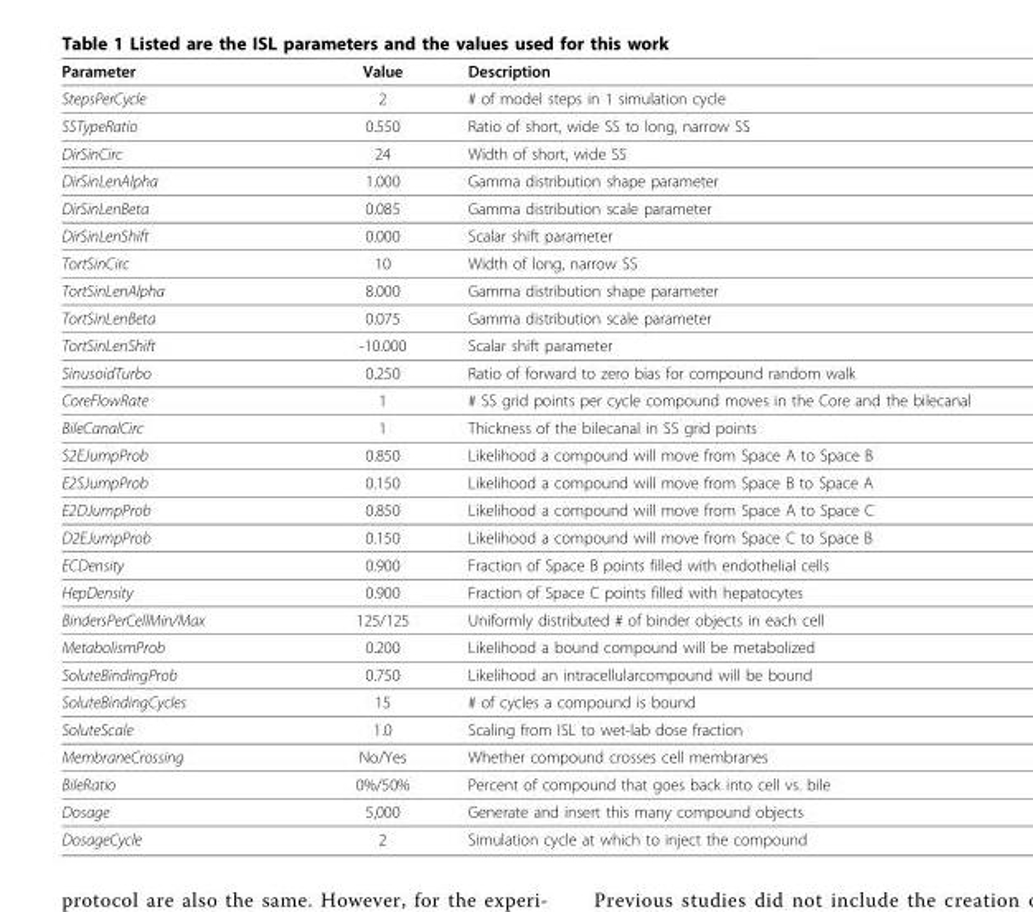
<table><thead><tr><td>Parameter</td><td>Value</td><td>Description</td></tr></thead><tbody><tr><td>StepsPerCycle</td><td>2</td><td># of model steps in 1 simulation cycle</td></tr><tr><td>SSTypeRatio</td><td>0.550</td><td>Ratio of short, wide SS to long, narrow SS</td></tr><tr><td>DirSinCirc</td><td>24</td><td>Width of short, wide SS</td></tr><tr><td>DirSinLenAlpha</td><td>1.000</td><td>Gamma distribution shape parameter</td></tr><tr><td>DirSinLenBeta</td><td>0.085</td><td>Gamma distribution scale parameter</td></tr><tr><td>DirSinLenShift</td><td>0.000</td><td>Scalar shift parameter</td></tr><tr><td>TortSinCirc</td><td>10</td><td>Width of long, narrow SS</td></tr><tr><td>TortSinLenAlpha</td><td>8.000</td><td>Gamma distribution shape parameter</td></tr><tr><td>TortSinLenBeta</td><td>0.075</td><td>Gamma distribution scale parameter</td></tr><tr><td>TortSinLenShift</td><td>-10.000</td><td>Scalar shift parameter</td></tr><tr><td>SinusoidTurbo</td><td>0.250</td><td>Ratio of forward to zero bias for compound random walk</td></tr><tr><td>CoreFlowRate</td><td>1</td><td># SS grid points per cycle compound moves in the Core and the bilecanal</td></tr><tr><td>BileCanalCirc</td><td>1</td><td>Thickness of the bilecanal in SS grid points</td></tr><tr><td>S2EJumpProb</td><td>0.850</td><td>Likelihood a compound will move from Space A to Space B</td></tr><tr><td>E2SJumpProb</td><td>0.150</td><td>Likelihood a compound will move from Space B to Space A</td></tr><tr><td>E2DJumpProb</td><td>0.850</td><td>Likelihood a compound will move from Space A to Space C</td></tr><tr><td>D2EJumpProb</td><td>0.150</td><td>Likelihood a compound will move from Space C to Space B</td></tr><tr><td>ECDensity</td><td>0.900</td><td>Fraction of Space B points filled with endothelial cells</td></tr><tr><td>HepDensity</td><td>0.900</td><td>Fraction of Space C points filled with hepatocytes</td></tr><tr><td>BindersPerCellMin/Max</td><td>125/125</td><td>Uniformly distributed # of binder objects in each cell</td></tr><tr><td>MetabolismProb</td><td>0.200</td><td>Likelihood a bound compound will be metabolized</td></tr><tr><td>SoluteBindingProb</td><td>0.750</td><td>Likelihood an intracellularcompound will be bound</td></tr><tr><td>SoluteBindingCycles</td><td>15</td><td># of cycles a compound is bound</td></tr><tr><td>SoluteScale</td><td>1.0</td><td>Scaling from ISL to wet-lab dose fraction</td></tr><tr><td>MembraneCrossing</td><td>No/Yes</td><td>Whether compound crosses cell membranes</td></tr><tr><td>BileRatio</td><td>0%/50%</td><td>Percent of compound that goes back into cell vs. bile</td></tr><tr><td>Dosage</td><td>5,000</td><td>Generate and insert this many compound objects</td></tr><tr><td>DosageCycle</td><td>2</td><td>Simulation cycle at which to inject the compound</td></tr></tbody></table>